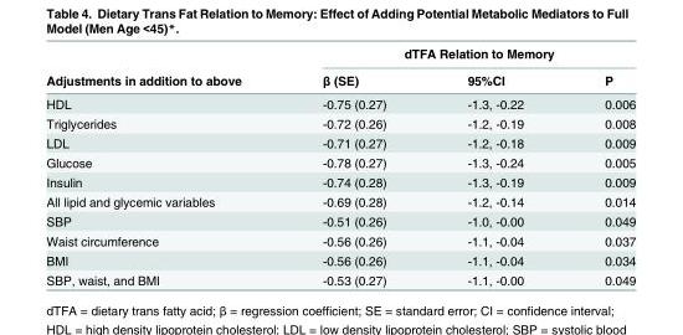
<table><thead><tr><td rowspan="2">Adjustments in addition to above</td><td colspan="3">dTFA Relation to Memory</td></tr><tr><td>β (SE)</td><td>95%CI</td><td>P</td></tr></thead><tbody><tr><td>HDL</td><td>-0.75 (0.27)</td><td>-1.3, -0.22</td><td>0.006</td></tr><tr><td>Triglycerides</td><td>-0.72 (0.26)</td><td>-1.2, -0.19</td><td>0.008</td></tr><tr><td>LDL</td><td>-0.71 (0.27)</td><td>-1.2, -0.18</td><td>0.009</td></tr><tr><td>Glucose</td><td>-0.78 (0.27)</td><td>-1.3, -0.24</td><td>0.005</td></tr><tr><td>Insulin</td><td>-0.74 (0.28)</td><td>-1.3, -0.19</td><td>0.009</td></tr><tr><td>All lipid and glycemic variables</td><td>-0.69 (0.28)</td><td>-1.2, -0.14</td><td>0.014</td></tr><tr><td>SBP</td><td>-0.51 (0.26)</td><td>-1.0, -0.00</td><td>0.049</td></tr><tr><td>Waist circumference</td><td>-0.56 (0.26)</td><td>-1.1, -0.04</td><td>0.037</td></tr><tr><td>BMI</td><td>-0.56 (0.26)</td><td>-1.1, -0.04</td><td>0.034</td></tr><tr><td>SBP, waist, and BMI</td><td>-0.53 (0.27)</td><td>-1.1, -0.00</td><td>0.049</td></tr></tbody></table>